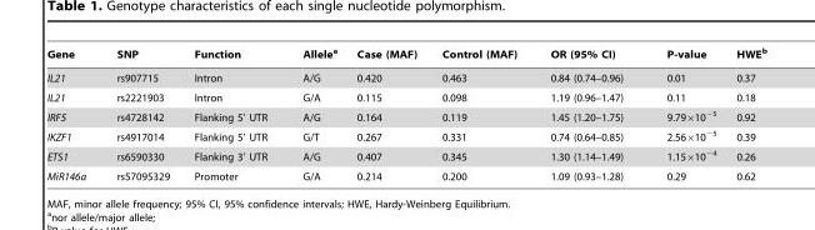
<table><thead><tr><td>Gene</td><td>SNP</td><td>Function</td><td>Allele<sup>a</sup></td><td>Case (MAF)</td><td>Control (MAF)</td><td>OR (95% CI)</td><td>P-value</td><td>HWE<sup>b</sup></td></tr></thead><tbody><tr><td>IL21</td><td>rs907715</td><td>Intron</td><td>A/G</td><td>0.420</td><td>0.463</td><td>0.84 (0.74–0.96)</td><td>0.01</td><td>0.37</td></tr><tr><td>IL21</td><td>rs2221903</td><td>Intron</td><td>G/A</td><td>0.115</td><td>0.098</td><td>1.19 (0.96–1.47)</td><td>0.11</td><td>0.18</td></tr><tr><td>IRF5</td><td>rs4728142</td><td>Flanking 5’ UTR</td><td>A/G</td><td>0.164</td><td>0.119</td><td>1.45 (1.20–1.75)</td><td>9.79×10<sup>−5</sup></td><td>0.92</td></tr><tr><td>IKZF1</td><td>rs4917014</td><td>Flanking 5’ UTR</td><td>G/T</td><td>0.267</td><td>0.331</td><td>0.74 (0.64–0.85)</td><td>2.56×10<sup>−5</sup></td><td>0.39</td></tr><tr><td>ETS1</td><td>rs6590330</td><td>Flanking 3’ UTR</td><td>A/G</td><td>0.407</td><td>0.345</td><td>1.30 (1.14–1.49)</td><td>1.15×10<sup>−4</sup></td><td>0.26</td></tr><tr><td>MiR146a</td><td>rs57095329</td><td>Promoter</td><td>G/A</td><td>0.214</td><td>0.200</td><td>1.09 (0.93–1.28)</td><td>0.29</td><td>0.62</td></tr></tbody></table>